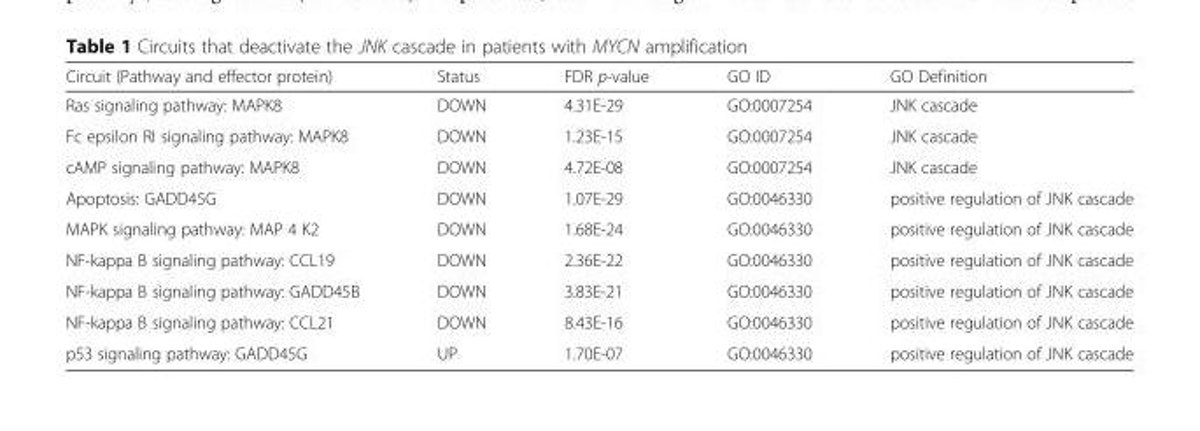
<table><thead><tr><td>Circuit (Pathway and effector protein)</td><td>Status</td><td>FDR p-value</td><td>GO ID</td><td>GO Definition</td></tr></thead><tbody><tr><td>Ras signaling pathway: MAPK8</td><td>DOWN</td><td>4.31E-29</td><td>GO:0007254</td><td>JNK cascade</td></tr><tr><td>Fc epsilon RI signaling pathway: MAPK8</td><td>DOWN</td><td>1.23E-15</td><td>GO:0007254</td><td>JNK cascade</td></tr><tr><td>cAMP signaling pathway: MAPK8</td><td>DOWN</td><td>4.72E-08</td><td>GO:0007254</td><td>JNK cascade</td></tr><tr><td>Apoptosis: GADD45G</td><td>DOWN</td><td>1.07E-29</td><td>GO:0046330</td><td>positive regulation of JNK cascade</td></tr><tr><td>MAPK signaling pathway: MAP 4 K2</td><td>DOWN</td><td>1.68E-24</td><td>GO:0046330</td><td>positive regulation of JNK cascade</td></tr><tr><td>NF-kappa B signaling pathway: CCL19</td><td>DOWN</td><td>2.36E-22</td><td>GO:0046330</td><td>positive regulation of JNK cascade</td></tr><tr><td>NF-kappa B signaling pathway: GADD45B</td><td>DOWN</td><td>3.83E-21</td><td>GO:0046330</td><td>positive regulation of JNK cascade</td></tr><tr><td>NF-kappa B signaling pathway: CCL21</td><td>DOWN</td><td>8.43E-16</td><td>GO:0046330</td><td>positive regulation of JNK cascade</td></tr><tr><td>p53 signaling pathway: GADD45G</td><td>UP</td><td>1.70E-07</td><td>GO:0046330</td><td>positive regulation of JNK cascade</td></tr></tbody></table>